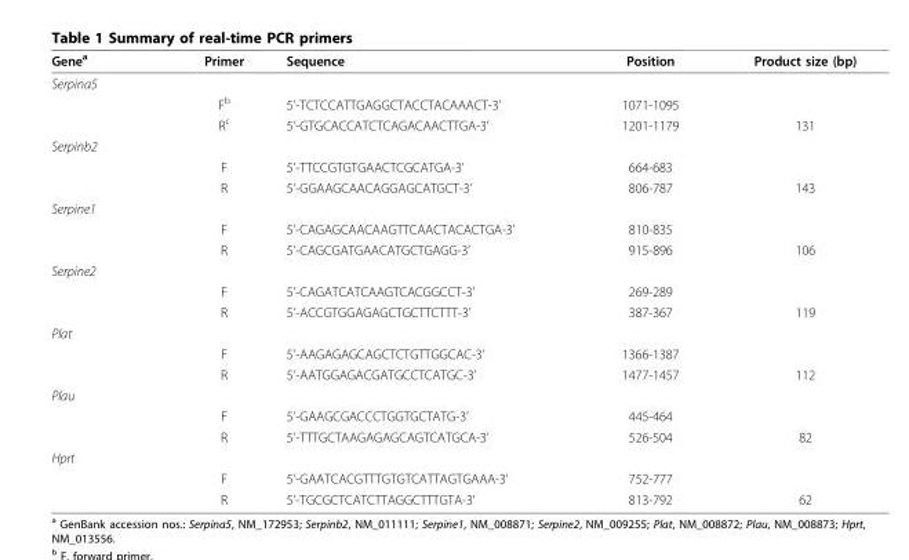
<table><thead><tr><td>Gene<sup>a</sup></td><td>Primer</td><td>Sequence</td><td>Position</td><td>Product size (bp)</td></tr></thead><tbody><tr><td colspan="5">Serpina5</td></tr><tr><td></td><td>F<sup>b</sup></td><td>5’-TCTCCATTGAGGCTACCTACAAACT-3’</td><td>1071-1095</td><td></td></tr><tr><td></td><td>R<sup>c</sup></td><td>5’-GTGCACCATCTCAGACAACTTGA-3’</td><td>1201-1179</td><td>131</td></tr><tr><td colspan="5">Serpinb2</td></tr><tr><td></td><td>F</td><td>5’-TTCCGTGTGAACTCGCATGA-3’</td><td>664-683</td><td></td></tr><tr><td></td><td>R</td><td>5’-GGAAGCAACAGGAGCATGCT-3’</td><td>806-787</td><td>143</td></tr><tr><td colspan="5">Serpine1</td></tr><tr><td></td><td>F</td><td>5’-CAGAGCAACAAGTTCAACTACACTGA-3’</td><td>810-835</td><td></td></tr><tr><td></td><td>R</td><td>5’-CAGCGATGAACATGCTGAGG-3’</td><td>915-896</td><td>106</td></tr><tr><td colspan="5">Serpine2</td></tr><tr><td></td><td>F</td><td>5’-CAGATCATCAAGTCACGGCCT-3’</td><td>269-289</td><td></td></tr><tr><td></td><td>R</td><td>5’-ACCGTGGAGAGCTGCTTCTTT-3’</td><td>387-367</td><td>119</td></tr><tr><td colspan="5">Plat</td></tr><tr><td></td><td>F</td><td>5’-AAGAGAGCAGCTCTGTTGGCAC-3’</td><td>1366-1387</td><td></td></tr><tr><td></td><td>R</td><td>5’-AATGGAGACGATGCCTCATGC-3’</td><td>1477-1457</td><td>112</td></tr><tr><td colspan="5">Plau</td></tr><tr><td></td><td>F</td><td>5’-GAAGCGACCCTGGTGCTATG-3’</td><td>445-464</td><td></td></tr><tr><td></td><td>R</td><td>5’-TTTGCTAAGAGAGCAGTCATGCA-3’</td><td>526-504</td><td>82</td></tr><tr><td colspan="5">Hprt</td></tr><tr><td></td><td>F</td><td>5’-GAATCACGTTTGTGTCATTAGTGAAA-3’</td><td>752-777</td><td></td></tr><tr><td></td><td>R</td><td>5’-TGCGCTCATCTTAGGCTTTGTA-3’</td><td>813-792</td><td>62</td></tr></tbody></table>